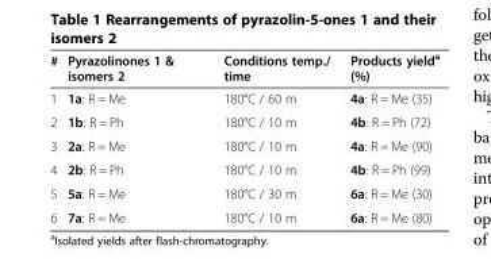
<table><thead><tr><td>#</td><td>Pyrazolinones 1 &amp; isomers 2</td><td>Conditions temp./ time</td><td>Products yield<sup>a</sup> (%)</td></tr></thead><tbody><tr><td>1</td><td>1a: R = Me</td><td>180°C / 60 m</td><td>4a: R = Me (35)</td></tr><tr><td>2</td><td>1b: R = Ph</td><td>180°C / 10 m</td><td>4b: R = Ph (72)</td></tr><tr><td>3</td><td>2a: R = Me</td><td>180°C / 10 m</td><td>4a: R = Me (90)</td></tr><tr><td>4</td><td>2b: R = Ph</td><td>180°C / 10 m</td><td>4b: R = Ph (99)</td></tr><tr><td>5</td><td>5a: R = Me</td><td>180°C / 30 m</td><td>6a: R = Me (30)</td></tr><tr><td>6</td><td>7a: R = Me</td><td>180°C / 10 m</td><td>6a: R = Me (80)</td></tr></tbody></table>